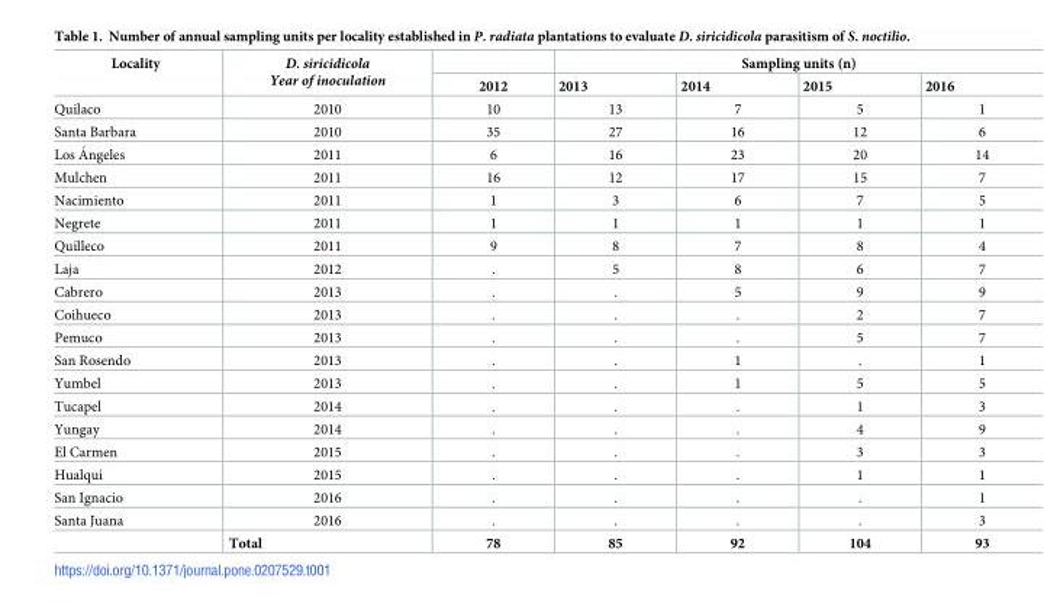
<table><thead><tr><td rowspan="2">Locality</td><td rowspan="2">D. siricidicola Year of inoculation</td><td rowspan="2">2012</td><td colspan="4">Sampling units (n)</td></tr><tr><td>2013</td><td>2014</td><td>2015</td><td>2016</td></tr></thead><tbody><tr><td>Quilaco</td><td>2010</td><td>10</td><td>13</td><td>7</td><td>5</td><td>1</td></tr><tr><td>Santa Barbara</td><td>2010</td><td>35</td><td>27</td><td>16</td><td>12</td><td>6</td></tr><tr><td>Los A´ngeles</td><td>2011</td><td>6</td><td>16</td><td>23</td><td>20</td><td>14</td></tr><tr><td>Mulchen</td><td>2011</td><td>16</td><td>12</td><td>17</td><td>15</td><td>7</td></tr><tr><td>Nacimiento</td><td>2011</td><td>1</td><td>3</td><td>6</td><td>7</td><td>5</td></tr><tr><td>Negrete</td><td>2011</td><td>1</td><td>1</td><td>1</td><td>1</td><td>1</td></tr><tr><td>Quilleco</td><td>2011</td><td>9</td><td>8</td><td>7</td><td>8</td><td>4</td></tr><tr><td>Laja</td><td>2012</td><td>.</td><td>5</td><td>8</td><td>6</td><td>7</td></tr><tr><td>Cabrero</td><td>2013</td><td>.</td><td>.</td><td>5</td><td>9</td><td>9</td></tr><tr><td>Coihueco</td><td>2013</td><td>.</td><td>.</td><td>.</td><td>2</td><td>7</td></tr><tr><td>Pemuco</td><td>2013</td><td>.</td><td>.</td><td>.</td><td>5</td><td>7</td></tr><tr><td>San Rosendo</td><td>2013</td><td>.</td><td>.</td><td>1</td><td>.</td><td>1</td></tr><tr><td>Yumbel</td><td>2013</td><td>.</td><td>.</td><td>1</td><td>5</td><td>5</td></tr><tr><td>Tucapel</td><td>2014</td><td>.</td><td>.</td><td>.</td><td>1</td><td>3</td></tr><tr><td>Yungay</td><td>2014</td><td>.</td><td>.</td><td>.</td><td>4</td><td>9</td></tr><tr><td>El Carmen</td><td>2015</td><td>.</td><td>.</td><td>.</td><td>3</td><td>3</td></tr><tr><td>Hualqui</td><td>2015</td><td>.</td><td>.</td><td>.</td><td>1</td><td>1</td></tr><tr><td>San Ignacio</td><td>2016</td><td>.</td><td>.</td><td>.</td><td>.</td><td>1</td></tr><tr><td rowspan="2">Santa Juana</td><td>2016</td><td>.</td><td>.</td><td>.</td><td>.</td><td>3</td></tr><tr><td>Total</td><td>78</td><td>85</td><td>92</td><td>104</td><td>93</td></tr></tbody></table>